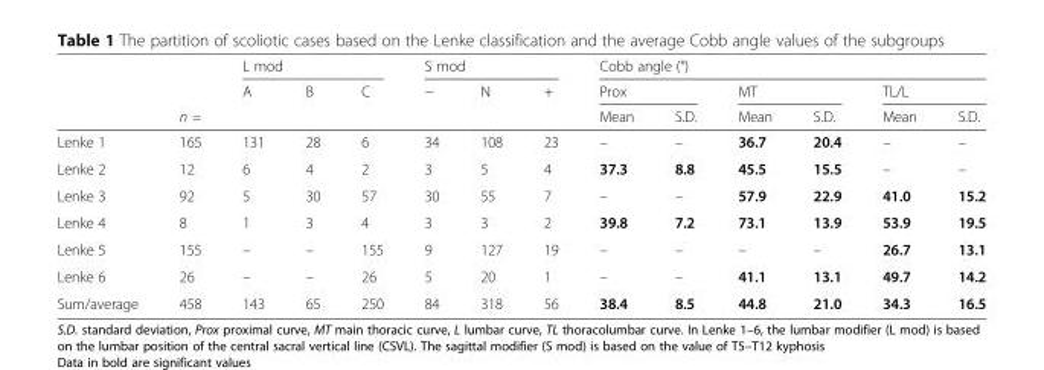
<table><thead><tr><td rowspan="3"></td><td rowspan="3">n =</td><td colspan="3">L mod</td><td colspan="3">S mod</td><td colspan="6">Cobb angle (°)</td></tr><tr><td rowspan="2">A</td><td rowspan="2">B</td><td rowspan="2">C</td><td rowspan="2">−</td><td rowspan="2">N</td><td rowspan="2">+</td><td colspan="2">Prox</td><td colspan="2">MT</td><td colspan="2">TL/L</td></tr><tr><td>Mean</td><td>S.D.</td><td>Mean</td><td>S.D.</td><td>Mean</td><td>S.D.</td></tr></thead><tbody><tr><td>Lenke 1</td><td>165</td><td>131</td><td>28</td><td>6</td><td>34</td><td>108</td><td>23</td><td>–</td><td>–</td><td>36.7</td><td>20.4</td><td>–</td><td>–</td></tr><tr><td>Lenke 2</td><td>12</td><td>6</td><td>4</td><td>2</td><td>3</td><td>5</td><td>4</td><td>37.3</td><td>8.8</td><td>45.5</td><td>15.5</td><td>–</td><td>–</td></tr><tr><td>Lenke 3</td><td>92</td><td>5</td><td>30</td><td>57</td><td>30</td><td>55</td><td>7</td><td>–</td><td>–</td><td>57.9</td><td>22.9</td><td>41.0</td><td>15.2</td></tr><tr><td>Lenke 4</td><td>8</td><td>1</td><td>3</td><td>4</td><td>3</td><td>3</td><td>2</td><td>39.8</td><td>7.2</td><td>73.1</td><td>13.9</td><td>53.9</td><td>19.5</td></tr><tr><td>Lenke 5</td><td>155</td><td>–</td><td>–</td><td>155</td><td>9</td><td>127</td><td>19</td><td>–</td><td>–</td><td>–</td><td>–</td><td>26.7</td><td>13.1</td></tr><tr><td>Lenke 6</td><td>26</td><td>–</td><td>–</td><td>26</td><td>5</td><td>20</td><td>1</td><td>–</td><td>–</td><td>41.1</td><td>13.1</td><td>49.7</td><td>14.2</td></tr><tr><td>Sum/average</td><td>458</td><td>143</td><td>65</td><td>250</td><td>84</td><td>318</td><td>56</td><td>38.4</td><td>8.5</td><td>44.8</td><td>21.0</td><td>34.3</td><td>16.5</td></tr></tbody></table>